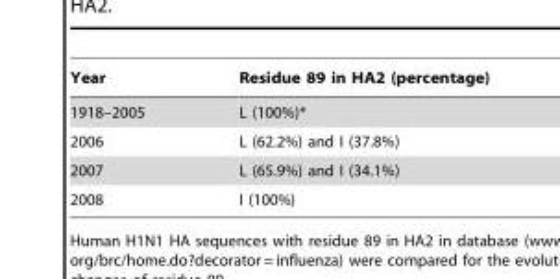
<table><thead><tr><td>Year</td><td>Residue 89 in HA2 (percentage)</td></tr></thead><tbody><tr><td>1918–2005</td><td>L (100%)*</td></tr><tr><td>2006</td><td>L (62.2%) and I (37.8%)</td></tr><tr><td>2007</td><td>L (65.9%) and I (34.1%)</td></tr><tr><td>2008</td><td>I (100%)</td></tr></tbody></table>